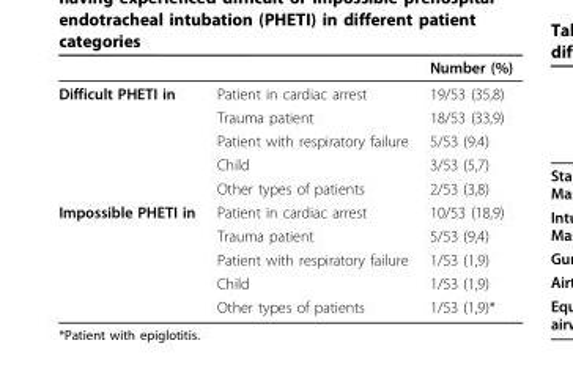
<table><thead><tr><td></td><td></td><td>Number (%)</td></tr></thead><tbody><tr><td rowspan="5">Difficult PHETI in</td><td>Patient in cardiac arrest</td><td>19/53 (35,8)</td></tr><tr><td>Trauma patient</td><td>18/53 (33,9)</td></tr><tr><td>Patient with respiratory failure</td><td>5/53 (9.4)</td></tr><tr><td>Child</td><td>3/53 (5,7)</td></tr><tr><td>Other types of patients</td><td>2/53 (3,8)</td></tr><tr><td rowspan="5">Impossible PHETI in</td><td>Patient in cardiac arrest</td><td>10/53 (18,9)</td></tr><tr><td>Trauma patient</td><td>5/53 (9,4)</td></tr><tr><td>Patient with respiratory failure</td><td>1/53 (1,9)</td></tr><tr><td>Child</td><td>1/53 (1,9)</td></tr><tr><td>Other types of patients</td><td>1/53 (1,9)*</td></tr></tbody></table>